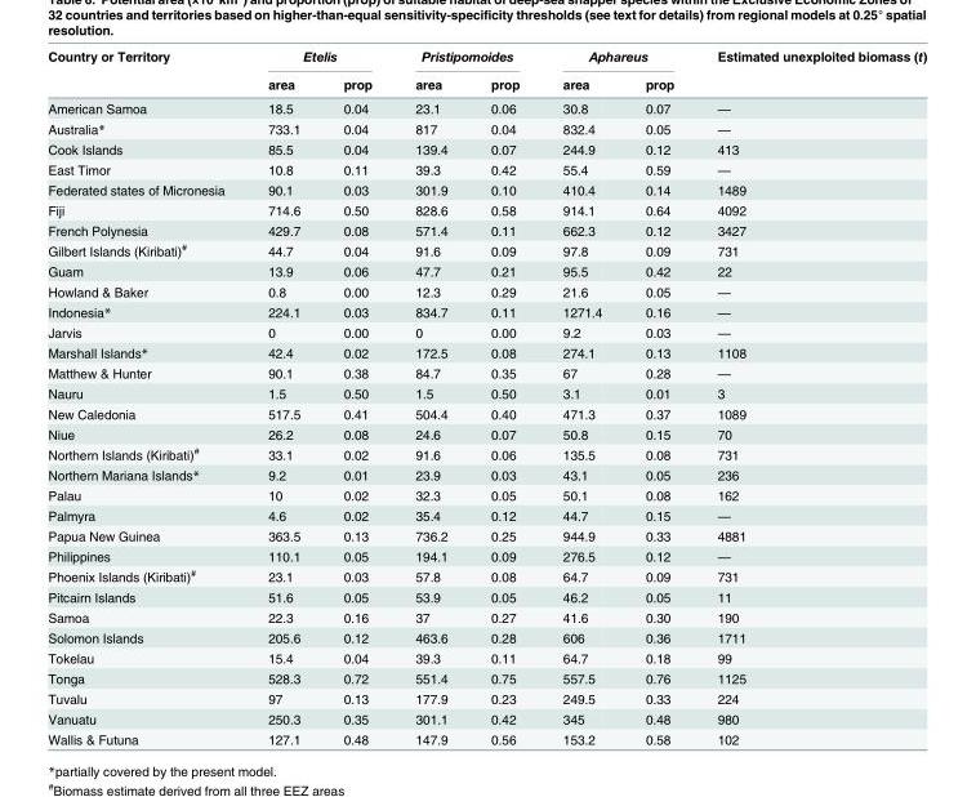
<table><thead><tr><td rowspan="2">Country or Territory</td><td colspan="2">Etelis</td><td colspan="2">Pristipomoides</td><td colspan="2">Aphareus</td><td rowspan="2">Estimated unexploited biomass (t)</td></tr><tr><td>area</td><td>prop</td><td>area</td><td>prop</td><td>area</td><td>prop</td></tr></thead><tbody><tr><td>American Samoa</td><td>18.5</td><td>0.04</td><td>23.1</td><td>0.06</td><td>30.8</td><td>0.07</td><td>—</td></tr><tr><td>Australia*</td><td>733.1</td><td>0.04</td><td>817</td><td>0.04</td><td>832.4</td><td>0.05</td><td>—</td></tr><tr><td>Cook Islands</td><td>85.5</td><td>0.04</td><td>139.4</td><td>0.07</td><td>244.9</td><td>0.12</td><td>413</td></tr><tr><td>East Timor</td><td>10.8</td><td>0.11</td><td>39.3</td><td>0.42</td><td>55.4</td><td>0.59</td><td>—</td></tr><tr><td>Federated states of Micronesia</td><td>90.1</td><td>0.03</td><td>301.9</td><td>0.10</td><td>410.4</td><td>0.14</td><td>1489</td></tr><tr><td>Fiji</td><td>714.6</td><td>0.50</td><td>828.6</td><td>0.58</td><td>914.1</td><td>0.64</td><td>4092</td></tr><tr><td>French Polynesia</td><td>429.7</td><td>0.08</td><td>571.4</td><td>0.11</td><td>662.3</td><td>0.12</td><td>3427</td></tr><tr><td>Gilbert Islands (Kiribati)<sup>#</sup></td><td>44.7</td><td>0.04</td><td>91.6</td><td>0.09</td><td>97.8</td><td>0.09</td><td>731</td></tr><tr><td>Guam</td><td>13.9</td><td>0.06</td><td>47.7</td><td>0.21</td><td>95.5</td><td>0.42</td><td>22</td></tr><tr><td>Howland &amp; Baker</td><td>0.8</td><td>0.00</td><td>12.3</td><td>0.29</td><td>21.6</td><td>0.05</td><td>—</td></tr><tr><td>Indonesia*</td><td>224.1</td><td>0.03</td><td>834.7</td><td>0.11</td><td>1271.4</td><td>0.16</td><td>—</td></tr><tr><td>Jarvis</td><td>0</td><td>0.00</td><td>0</td><td>0.00</td><td>9.2</td><td>0.03</td><td>—</td></tr><tr><td>Marshall Islands*</td><td>42.4</td><td>0.02</td><td>172.5</td><td>0.08</td><td>274.1</td><td>0.13</td><td>1108</td></tr><tr><td>Matthew &amp; Hunter</td><td>90.1</td><td>0.38</td><td>84.7</td><td>0.35</td><td>67</td><td>0.28</td><td>—</td></tr><tr><td>Nauru</td><td>1.5</td><td>0.50</td><td>1.5</td><td>0.50</td><td>3.1</td><td>0.01</td><td>3</td></tr><tr><td>New Caledonia</td><td>517.5</td><td>0.41</td><td>504.4</td><td>0.40</td><td>471.3</td><td>0.37</td><td>1089</td></tr><tr><td>Niue</td><td>26.2</td><td>0.08</td><td>24.6</td><td>0.07</td><td>50.8</td><td>0.15</td><td>70</td></tr><tr><td>Northern Islands (Kiribati)<sup>#</sup></td><td>33.1</td><td>0.02</td><td>91.6</td><td>0.06</td><td>135.5</td><td>0.08</td><td>731</td></tr><tr><td>Northern Mariana Islands*</td><td>9.2</td><td>0.01</td><td>23.9</td><td>0.03</td><td>43.1</td><td>0.05</td><td>236</td></tr><tr><td>Palau</td><td>10</td><td>0.02</td><td>32.3</td><td>0.05</td><td>50.1</td><td>0.08</td><td>162</td></tr><tr><td>Palmyra</td><td>4.6</td><td>0.02</td><td>35.4</td><td>0.12</td><td>44.7</td><td>0.15</td><td>—</td></tr><tr><td>Papua New Guinea</td><td>363.5</td><td>0.13</td><td>736.2</td><td>0.25</td><td>944.9</td><td>0.33</td><td>4881</td></tr><tr><td>Philippines</td><td>110.1</td><td>0.05</td><td>194.1</td><td>0.09</td><td>276.5</td><td>0.12</td><td>—</td></tr><tr><td>Phoenix Islands (Kiribati)<sup>#</sup></td><td>23.1</td><td>0.03</td><td>57.8</td><td>0.08</td><td>64.7</td><td>0.09</td><td>731</td></tr><tr><td>Pitcairn Islands</td><td>51.6</td><td>0.05</td><td>53.9</td><td>0.05</td><td>46.2</td><td>0.05</td><td>11</td></tr><tr><td>Samoa</td><td>22.3</td><td>0.16</td><td>37</td><td>0.27</td><td>41.6</td><td>0.30</td><td>190</td></tr><tr><td>Solomon Islands</td><td>205.6</td><td>0.12</td><td>463.6</td><td>0.28</td><td>606</td><td>0.36</td><td>1711</td></tr><tr><td>Tokelau</td><td>15.4</td><td>0.04</td><td>39.3</td><td>0.11</td><td>64.7</td><td>0.18</td><td>99</td></tr><tr><td>Tonga</td><td>528.3</td><td>0.72</td><td>551.4</td><td>0.75</td><td>557.5</td><td>0.76</td><td>1125</td></tr><tr><td>Tuvalu</td><td>97</td><td>0.13</td><td>177.9</td><td>0.23</td><td>249.5</td><td>0.33</td><td>224</td></tr><tr><td>Vanuatu</td><td>250.3</td><td>0.35</td><td>301.1</td><td>0.42</td><td>345</td><td>0.48</td><td>980</td></tr><tr><td>Wallis &amp; Futuna</td><td>127.1</td><td>0.48</td><td>147.9</td><td>0.56</td><td>153.2</td><td>0.58</td><td>102</td></tr></tbody></table>